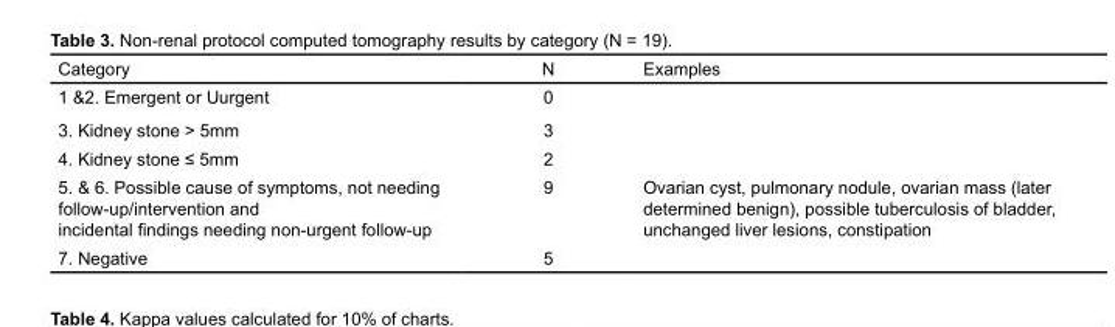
<table><thead><tr><td>Category</td><td>N</td><td>Examples</td></tr></thead><tbody><tr><td>1 &amp;2. Emergent or Uurgent</td><td>0</td><td></td></tr><tr><td>3. Kidney stone &gt; 5mm</td><td>3</td><td></td></tr><tr><td>4. Kidney stone ≤ 5mm</td><td>2</td><td></td></tr><tr><td>5. &amp; 6. Possible cause of symptoms, not needing follow-up/intervention and incidental findings needing non-urgent follow-up</td><td>9</td><td>Ovarian cyst, pulmonary nodule, ovarian mass (later determined benign), possible tuberculosis of bladder, unchanged liver lesions, constipation</td></tr><tr><td>7. Negative</td><td>5</td><td></td></tr></tbody></table>